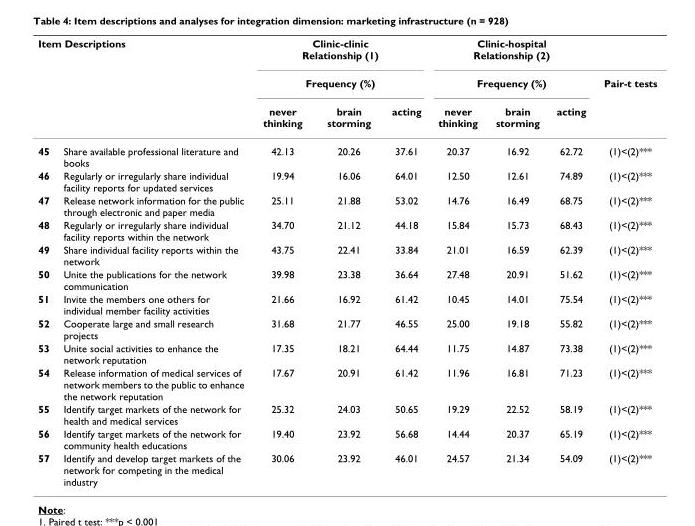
<table><thead><tr><td colspan="2">Item Descriptions</td><td rowspan="2" colspan="3">Clinic-clinic Relationship (1) Frequency (%)</td><td rowspan="2" colspan="3">Clinic-hospital Relationship (2) Frequency (%)</td><td rowspan="3">Pair-t tests</td></tr><tr><td rowspan="2"></td><td rowspan="2"></td></tr><tr><td>never thinking</td><td>brain storming</td><td>acting</td><td>never thinking</td><td>brain storming</td><td>acting</td></tr></thead><tbody><tr><td>45</td><td>Share available professional literature and books</td><td>42.13</td><td>20.26</td><td>37.61</td><td>20.37</td><td>16.92</td><td>62.72</td><td>(1)&lt;(2)***</td></tr><tr><td>46</td><td>Regularly or irregularly share individual facility reports for updated services</td><td>19.94</td><td>16.06</td><td>64.01</td><td>12.50</td><td>12.61</td><td>74.89</td><td>(1)&lt;(2)***</td></tr><tr><td>47</td><td>Release network information for the public through electronic and paper media</td><td>25.11</td><td>21.88</td><td>53.02</td><td>14.76</td><td>16.49</td><td>68.75</td><td>(1)&lt;(2)***</td></tr><tr><td>48</td><td>Regularly or irregularly share individual facility reports within the network</td><td>34.70</td><td>21.12</td><td>44.18</td><td>15.84</td><td>15.73</td><td>68.43</td><td>(1)&lt;(2)***</td></tr><tr><td>49</td><td>Share individual facility reports within the network</td><td>43.75</td><td>22.41</td><td>33.84</td><td>21.01</td><td>16.59</td><td>62.39</td><td>(1)&lt;(2)***</td></tr><tr><td>50</td><td>Unite the publications for the network communication</td><td>39.98</td><td>23.38</td><td>36.64</td><td>27.48</td><td>20.91</td><td>51.62</td><td>(1)&lt;(2)***</td></tr><tr><td>51</td><td>Invite the members one others for individual member facility activities</td><td>21.66</td><td>16.92</td><td>61.42</td><td>10.45</td><td>14.01</td><td>75.54</td><td>(1)&lt;(2)***</td></tr><tr><td>52</td><td>Cooperate large and small research projects</td><td>31.68</td><td>21.77</td><td>46.55</td><td>25.00</td><td>19.18</td><td>55.82</td><td>(1)&lt;(2)***</td></tr><tr><td>53</td><td>Unite social activities to enhance the network reputation</td><td>17.35</td><td>18.21</td><td>64.44</td><td>11.75</td><td>14.87</td><td>73.38</td><td>(1)&lt;(2)***</td></tr><tr><td>54</td><td>Release information of medical services of network members to the public to enhance the network reputation</td><td>17.67</td><td>20.91</td><td>61.42</td><td>11.96</td><td>16.81</td><td>71.23</td><td>(1)&lt;(2)***</td></tr><tr><td>55</td><td>Identify target markets of the network for health and medical services</td><td>25.32</td><td>24.03</td><td>50.65</td><td>19.29</td><td>22.52</td><td>58.19</td><td>(1)&lt;(2)***</td></tr><tr><td>56</td><td>Identify target markets of the network for community health educations</td><td>19.40</td><td>23.92</td><td>56.68</td><td>14.44</td><td>20.37</td><td>65.19</td><td>(1)&lt;(2)***</td></tr><tr><td>57</td><td>Identify and develop target markets of the network for competing in the medical industry</td><td>30.06</td><td>23.92</td><td>46.01</td><td>24.57</td><td>21.34</td><td>54.09</td><td>(1)&lt;(2)***</td></tr></tbody></table>